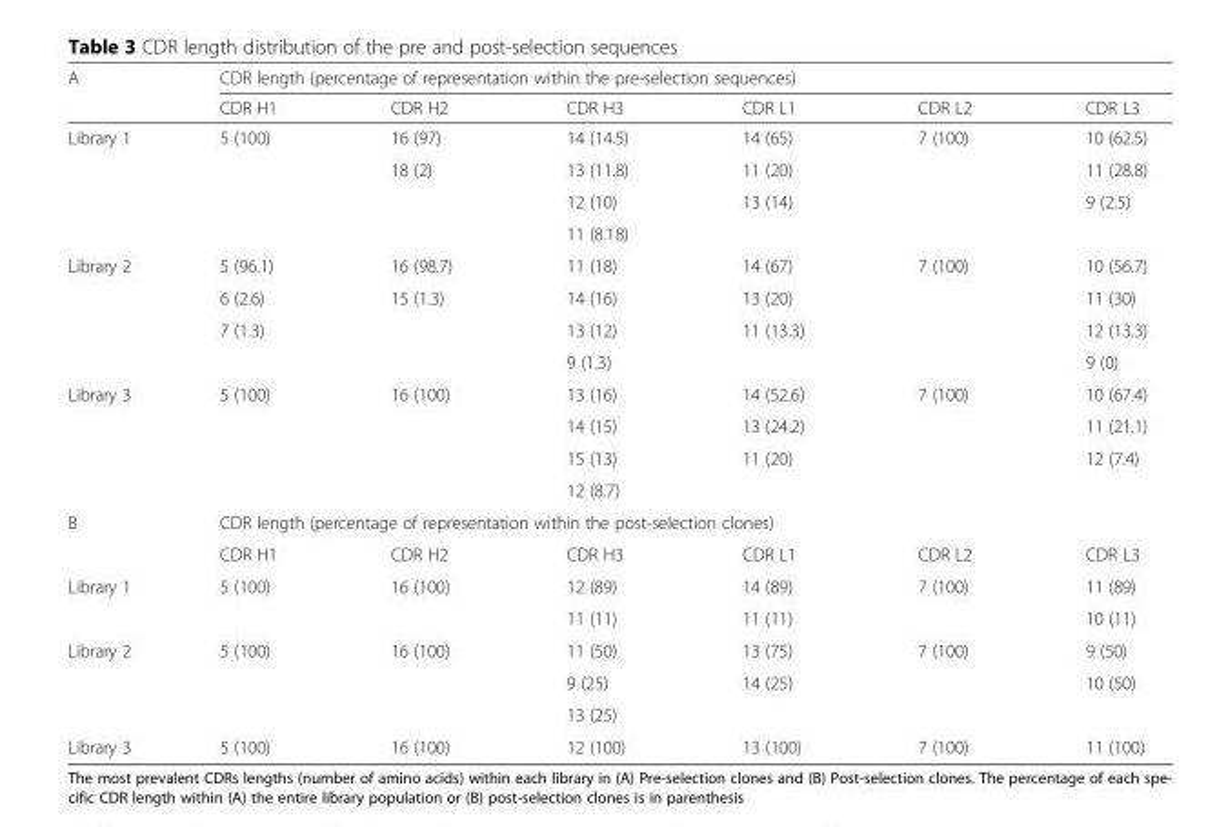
<table><thead><tr><td rowspan="2">A</td><td colspan="6">CDR length (percentage of representation within the pre-selection sequences)</td></tr><tr><td>CDR H1</td><td>CDR H2</td><td>CDR H3</td><td>CDR L1</td><td>CDR L2</td><td>CDR L3</td></tr></thead><tbody><tr><td rowspan="4">Library 1</td><td rowspan="4">5 (100)</td><td>16 (97)</td><td>14 (14.5)</td><td>14 (65)</td><td rowspan="4">7 (100)</td><td>10 (62.5)</td></tr><tr><td rowspan="3">18 (2)</td><td>13 (11.8)</td><td>11 (20)</td><td>11 (28.8)</td></tr><tr><td>12 (10)</td><td rowspan="2">13 (14)</td><td rowspan="2">9 (2.5)</td></tr><tr><td>11 (8.18)</td></tr><tr><td rowspan="4">Library 2</td><td>5 (96.1)</td><td>16 (98.7)</td><td>11 (18)</td><td>14 (67)</td><td rowspan="4">7 (100)</td><td>10 (56.7)</td></tr><tr><td>6 (2.6)</td><td rowspan="3">15 (1.3)</td><td>14 (16)</td><td>13 (20)</td><td>11 (30)</td></tr><tr><td rowspan="2">7 (1.3)</td><td>13 (12)</td><td>11 (13.3)</td><td>12 (13.3)</td></tr><tr><td>9 (1.3)</td><td></td><td>9 (0)</td></tr><tr><td rowspan="4">Library 3</td><td rowspan="4">5 (100)</td><td rowspan="4">16 (100)</td><td>13 (16)</td><td>14 (52.6)</td><td rowspan="4">7 (100)</td><td>10 (67.4)</td></tr><tr><td>14 (15)</td><td>13 (24.2)</td><td>11 (21.1)</td></tr><tr><td>15 (13)</td><td rowspan="2">11 (20)</td><td rowspan="2">12 (7.4)</td></tr><tr><td>12 (8.7)</td></tr><tr><td rowspan="2">B</td><td colspan="6">CDR length (percentage of representation within the post-selection clones)</td></tr><tr><td>CDR H1</td><td>CDR H2</td><td>CDR H3</td><td>CDR L1</td><td>CDR L2</td><td>CDR L3</td></tr><tr><td rowspan="2">Library 1</td><td rowspan="2">5 (100)</td><td rowspan="2">16 (100)</td><td>12 (89)</td><td>14 (89)</td><td rowspan="2">7 (100)</td><td>11 (89)</td></tr><tr><td>11 (11)</td><td>11 (11)</td><td>10 (11)</td></tr><tr><td rowspan="3">Library 2</td><td rowspan="3">5 (100)</td><td rowspan="3">16 (100)</td><td>11 (50)</td><td>13 (75)</td><td rowspan="3">7 (100)</td><td>9 (50)</td></tr><tr><td>9 (25)</td><td rowspan="2">14 (25)</td><td rowspan="2">10 (50)</td></tr><tr><td>13 (25)</td></tr><tr><td>Library 3</td><td>5 (100)</td><td>16 (100)</td><td>12 (100)</td><td>13 (100)</td><td>7 (100)</td><td>11 (100)</td></tr></tbody></table>